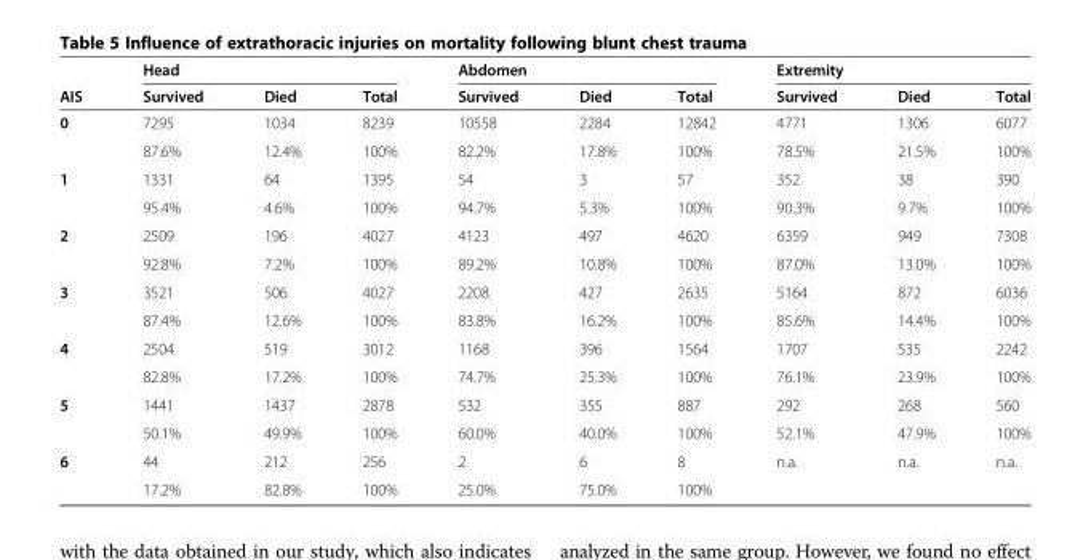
<table><thead><tr><td rowspan="2">AIS</td><td colspan="3">Head</td><td colspan="3">Abdomen</td><td colspan="3">Extremity</td></tr><tr><td>Survived</td><td>Died</td><td>Total</td><td>Survived</td><td>Died</td><td>Total</td><td>Survived</td><td>Died</td><td>Total</td></tr></thead><tbody><tr><td rowspan="2">0</td><td>7295</td><td>1034</td><td>8239</td><td>10558</td><td>2284</td><td>12842</td><td>4771</td><td>1306</td><td>6077</td></tr><tr><td>87.6%</td><td>12.4%</td><td>100%</td><td>82.2%</td><td>17.8%</td><td>100%</td><td>78.5%</td><td>21.5%</td><td>100%</td></tr><tr><td rowspan="2">1</td><td>1331</td><td>64</td><td>1395</td><td>54</td><td>3</td><td>57</td><td>352</td><td>38</td><td>390</td></tr><tr><td>95.4%</td><td>4.6%</td><td>100%</td><td>94.7%</td><td>5.3%</td><td>100%</td><td>90.3%</td><td>9.7%</td><td>100%</td></tr><tr><td rowspan="2">2</td><td>2509</td><td>196</td><td>4027</td><td>4123</td><td>497</td><td>4620</td><td>6359</td><td>949</td><td>7308</td></tr><tr><td>92.8%</td><td>7.2%</td><td>100%</td><td>89.2%</td><td>10.8%</td><td>100%</td><td>87.0%</td><td>13.0%</td><td>100%</td></tr><tr><td rowspan="2">3</td><td>3521</td><td>506</td><td>4027</td><td>2208</td><td>427</td><td>2635</td><td>5164</td><td>872</td><td>6036</td></tr><tr><td>87.4%</td><td>12.6%</td><td>100%</td><td>83.8%</td><td>16.2%</td><td>100%</td><td>85.6%</td><td>14.4%</td><td>100%</td></tr><tr><td rowspan="2">4</td><td>2504</td><td>519</td><td>3012</td><td>1168</td><td>396</td><td>1564</td><td>1707</td><td>535</td><td>2242</td></tr><tr><td>82.8%</td><td>17.2%</td><td>100%</td><td>74.7%</td><td>25.3%</td><td>100%</td><td>76.1%</td><td>23.9%</td><td>100%</td></tr><tr><td rowspan="2">5</td><td>1441</td><td>1437</td><td>2878</td><td>532</td><td>355</td><td>887</td><td>292</td><td>268</td><td>560</td></tr><tr><td>50.1%</td><td>49.9%</td><td>100%</td><td>60.0%</td><td>40.0%</td><td>100%</td><td>52.1%</td><td>47.9%</td><td>100%</td></tr><tr><td rowspan="2">6</td><td>44</td><td>212</td><td>256</td><td>2</td><td>6</td><td>8</td><td>n.a.</td><td>n.a.</td><td>n.a.</td></tr><tr><td>17.2%</td><td>82.8%</td><td>100%</td><td>25.0%</td><td>75.0%</td><td>100%</td><td></td><td></td><td></td></tr></tbody></table>